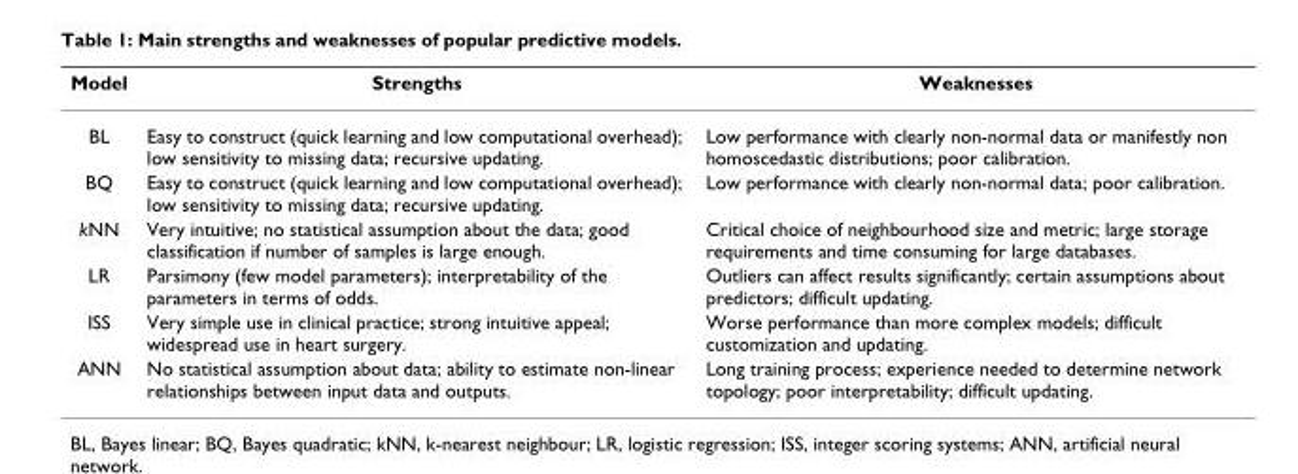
<table><thead><tr><td>Model</td><td>Strengths</td><td>Weaknesses</td></tr></thead><tbody><tr><td>BL</td><td>Easy to construct (quick learning and low computational overhead); low sensitivity to missing data; recursive updating.</td><td>Low performance with clearly non-normal data or manifestly non homoscedastic distributions; poor calibration.</td></tr><tr><td>BQ</td><td>Easy to construct (quick learning and low computational overhead); low sensitivity to missing data; recursive updating.</td><td>Low performance with clearly non-normal data; poor calibration.</td></tr><tr><td>kNN</td><td>Very intuitive; no statistical assumption about the data; good classification if number of samples is large enough.</td><td>Critical choice of neighbourhood size and metric; large storage requirements and time consuming for large databases.</td></tr><tr><td>LR</td><td>Parsimony (few model parameters); interpretability of the parameters in terms of odds.</td><td>Outliers can affect results significantly; certain assumptions about predictors; difficult updating.</td></tr><tr><td>ISS</td><td>Very simple use in clinical practice; strong intuitive appeal; widespread use in heart surgery.</td><td>Worse performance than more complex models; difficult customization and updating.</td></tr><tr><td>ANN</td><td>No statistical assumption about data; ability to estimate non-linear relationships between input data and outputs.</td><td>Long training process; experience needed to determine network topology; poor interpretability; difficult updating.</td></tr></tbody></table>